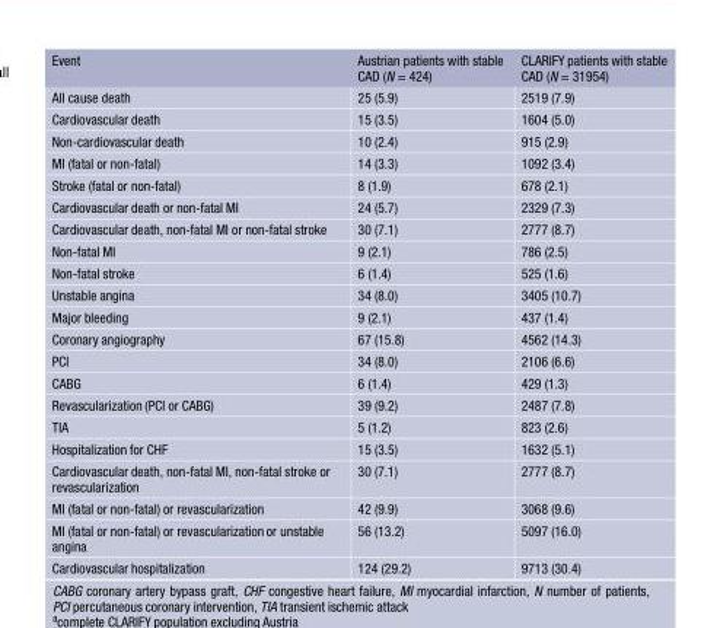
<table><thead><tr><td>Event</td><td>Austrian patients with stable CAD (N = 424)</td><td>CLARIFY patients with stable CAD (N = 31954)</td></tr></thead><tbody><tr><td>All cause death</td><td>25 (5.9)</td><td>2519 (7.9)</td></tr><tr><td>Cardiovascular death</td><td>15 (3.5)</td><td>1604 (5.0)</td></tr><tr><td>Non-cardiovascular death</td><td>10 (2.4)</td><td>915 (2.9)</td></tr><tr><td>MI (fatal or non-fatal)</td><td>14 (3.3)</td><td>1092 (3.4)</td></tr><tr><td>Stroke (fatal or non-fatal)</td><td>8 (1.9)</td><td>678 (2.1)</td></tr><tr><td>Cardiovascular death or non-fatal MI</td><td>24 (5.7)</td><td>2329 (7.3)</td></tr><tr><td>Cardiovascular death, non-fatal MI or non-fatal stroke</td><td>30 (7.1)</td><td>2777 (8.7)</td></tr><tr><td>Non-fatal MI</td><td>9 (2.1)</td><td>786 (2.5)</td></tr><tr><td>Non-fatal stroke</td><td>6 (1.4)</td><td>525 (1.6)</td></tr><tr><td>Unstable angina</td><td>34 (8.0)</td><td>3405 (10.7)</td></tr><tr><td>Major bleeding</td><td>9 (2.1)</td><td>437 (1.4)</td></tr><tr><td>Coronary angiography</td><td>67 (15.8)</td><td>4562 (14.3)</td></tr><tr><td>PCI</td><td>34 (8.0)</td><td>2106 (6.6)</td></tr><tr><td>CABG</td><td>6 (1.4)</td><td>429 (1.3)</td></tr><tr><td>Revascularization (PCI or CABG)</td><td>39 (9.2)</td><td>2487 (7.8)</td></tr><tr><td>TIA</td><td>5 (1.2)</td><td>823 (2.6)</td></tr><tr><td>Hospitalization for CHF</td><td>15 (3.5)</td><td>1632 (5.1)</td></tr><tr><td>Cardiovascular death, non-fatal MI, non-fatal stroke or revascularization</td><td>30 (7.1)</td><td>2777 (8.7)</td></tr><tr><td>MI (fatal or non-fatal) or revascularization</td><td>42 (9.9)</td><td>3068 (9.6)</td></tr><tr><td>MI (fatal or non-fatal) or revascularization or unstable angina</td><td>56 (13.2)</td><td>5097 (16.0)</td></tr><tr><td>Cardiovascular hospitalization</td><td>124 (29.2)</td><td>9713 (30.4)</td></tr></tbody></table>